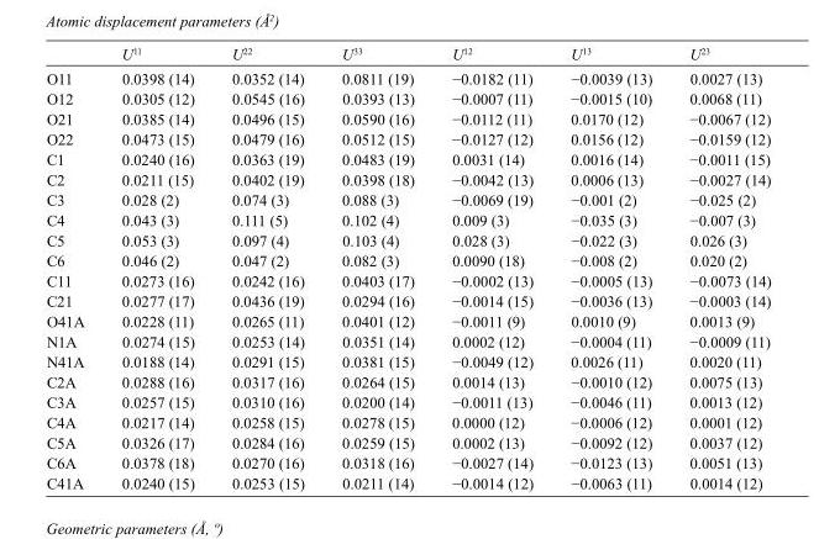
<table><thead><tr><td></td><td>U<sup>11</sup></td><td>U<sup>22</sup></td><td>U<sup>33</sup></td><td>U<sup>12</sup></td><td>U<sup>13</sup></td><td>U<sup>23</sup></td></tr></thead><tbody><tr><td>O11</td><td>0.0398 (14)</td><td>0.0352 (14)</td><td>0.0811 (19)</td><td>−0.0182 (11)</td><td>−0.0039 (13)</td><td>0.0027 (13)</td></tr><tr><td>O12</td><td>0.0305 (12)</td><td>0.0545 (16)</td><td>0.0393 (13)</td><td>−0.0007 (11)</td><td>−0.0015 (10)</td><td>0.0068 (11)</td></tr><tr><td>O21</td><td>0.0385 (14)</td><td>0.0496 (15)</td><td>0.0590 (16)</td><td>−0.0112 (11)</td><td>0.0170 (12)</td><td>−0.0067 (12)</td></tr><tr><td>O22</td><td>0.0473 (15)</td><td>0.0479 (16)</td><td>0.0512 (15)</td><td>−0.0127 (12)</td><td>0.0156 (12)</td><td>−0.0159 (12)</td></tr><tr><td>C1</td><td>0.0240 (16)</td><td>0.0363 (19)</td><td>0.0483 (19)</td><td>0.0031 (14)</td><td>0.0016 (14)</td><td>−0.0011 (15)</td></tr><tr><td>C2</td><td>0.0211 (15)</td><td>0.0402 (19)</td><td>0.0398 (18)</td><td>−0.0042 (13)</td><td>0.0006 (13)</td><td>−0.0027 (14)</td></tr><tr><td>C3</td><td>0.028 (2)</td><td>0.074 (3)</td><td>0.088 (3)</td><td>−0.0069 (19)</td><td>−0.001 (2)</td><td>−0.025 (2)</td></tr><tr><td>C4</td><td>0.043 (3)</td><td>0.111 (5)</td><td>0.102 (4)</td><td>0.009 (3)</td><td>−0.035 (3)</td><td>−0.007 (3)</td></tr><tr><td>C5</td><td>0.053 (3)</td><td>0.097 (4)</td><td>0.103 (4)</td><td>0.028 (3)</td><td>−0.022 (3)</td><td>0.026 (3)</td></tr><tr><td>C6</td><td>0.046 (2)</td><td>0.047 (2)</td><td>0.082 (3)</td><td>0.0090 (18)</td><td>−0.008 (2)</td><td>0.020 (2)</td></tr><tr><td>C11</td><td>0.0273 (16)</td><td>0.0242 (16)</td><td>0.0403 (17)</td><td>−0.0002 (13)</td><td>−0.0005 (13)</td><td>−0.0073 (14)</td></tr><tr><td>C21</td><td>0.0277 (17)</td><td>0.0436 (19)</td><td>0.0294 (16)</td><td>−0.0014 (15)</td><td>−0.0036 (13)</td><td>−0.0003 (14)</td></tr><tr><td>O41A</td><td>0.0228 (11)</td><td>0.0265 (11)</td><td>0.0401 (12)</td><td>−0.0011 (9)</td><td>0.0010 (9)</td><td>0.0013 (9)</td></tr><tr><td>N1A</td><td>0.0274 (15)</td><td>0.0253 (14)</td><td>0.0351 (14)</td><td>0.0002 (12)</td><td>−0.0004 (11)</td><td>−0.0009 (11)</td></tr><tr><td>N41A</td><td>0.0188 (14)</td><td>0.0291 (15)</td><td>0.0381 (15)</td><td>−0.0049 (12)</td><td>0.0026 (11)</td><td>0.0020 (11)</td></tr><tr><td>C2A</td><td>0.0288 (16)</td><td>0.0317 (16)</td><td>0.0264 (15)</td><td>0.0014 (13)</td><td>−0.0010 (12)</td><td>0.0075 (13)</td></tr><tr><td>C3A</td><td>0.0257 (15)</td><td>0.0310 (16)</td><td>0.0200 (14)</td><td>−0.0011 (13)</td><td>−0.0046 (11)</td><td>0.0013 (12)</td></tr><tr><td>C4A</td><td>0.0217 (14)</td><td>0.0258 (15)</td><td>0.0278 (15)</td><td>0.0000 (12)</td><td>−0.0006 (12)</td><td>0.0001 (12)</td></tr><tr><td>C5A</td><td>0.0326 (17)</td><td>0.0284 (16)</td><td>0.0259 (15)</td><td>0.0002 (13)</td><td>−0.0092 (12)</td><td>0.0037 (12)</td></tr><tr><td>C6A</td><td>0.0378 (18)</td><td>0.0270 (16)</td><td>0.0318 (16)</td><td>−0.0027 (14)</td><td>−0.0123 (13)</td><td>0.0051 (13)</td></tr><tr><td>C41A</td><td>0.0240 (15)</td><td>0.0253 (15)</td><td>0.0211 (14)</td><td>−0.0014 (12)</td><td>−0.0063 (11)</td><td>0.0014 (12)</td></tr></tbody></table>